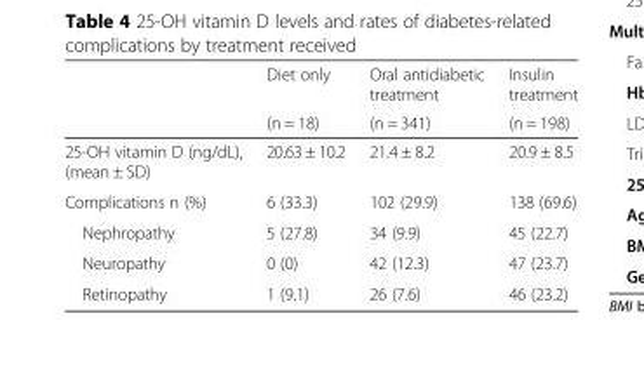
<table><thead><tr><td rowspan="2"></td><td rowspan="2">Diet only (n = 18)</td><td rowspan="2">Oral antidiabetic treatment (n = 341)</td><td rowspan="2">Insulin treatment (n = 198)</td></tr><tr></tr></thead><tbody><tr><td>25-OH vitamin D (ng/dL), (mean ± SD)</td><td>20.63 ± 10.2</td><td>21.4 ± 8.2</td><td>20.9 ± 8.5</td></tr><tr><td>Complications n (%)</td><td>6 (33.3)</td><td>102 (29.9)</td><td>138 (69.6)</td></tr><tr><td>Nephropathy</td><td>5 (27.8)</td><td>34 (9.9)</td><td>45 (22.7)</td></tr><tr><td>Neuropathy</td><td>0 (0)</td><td>42 (12.3)</td><td>47 (23.7)</td></tr><tr><td>Retinopathy</td><td>1 (9.1)</td><td>26 (7.6)</td><td>46 (23.2)</td></tr></tbody></table>